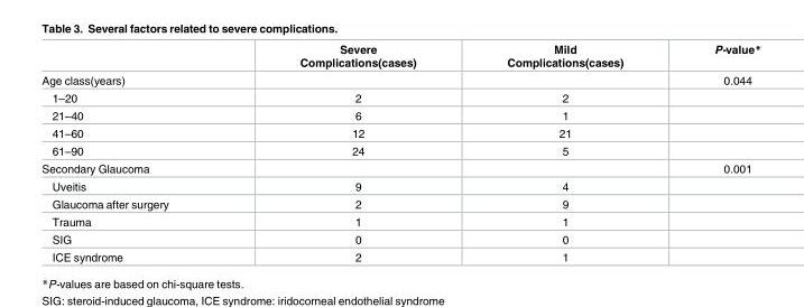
<table><thead><tr><td></td><td>Severe Complications(cases)</td><td>Mild Complications(cases)</td><td>P-value*</td></tr></thead><tbody><tr><td>Age class(years)</td><td></td><td></td><td>0.044</td></tr><tr><td>1–20</td><td>2</td><td>2</td><td></td></tr><tr><td>21–40</td><td>6</td><td>1</td><td></td></tr><tr><td>41–60</td><td>12</td><td>21</td><td></td></tr><tr><td>61–90</td><td>24</td><td>5</td><td></td></tr><tr><td>Secondary Glaucoma</td><td></td><td></td><td>0.001</td></tr><tr><td>Uveitis</td><td>9</td><td>4</td><td></td></tr><tr><td>Glaucoma after surgery</td><td>2</td><td>9</td><td></td></tr><tr><td>Trauma</td><td>1</td><td>1</td><td></td></tr><tr><td>SIG</td><td>0</td><td>0</td><td></td></tr><tr><td>ICE syndrome</td><td>2</td><td>1</td><td></td></tr></tbody></table>